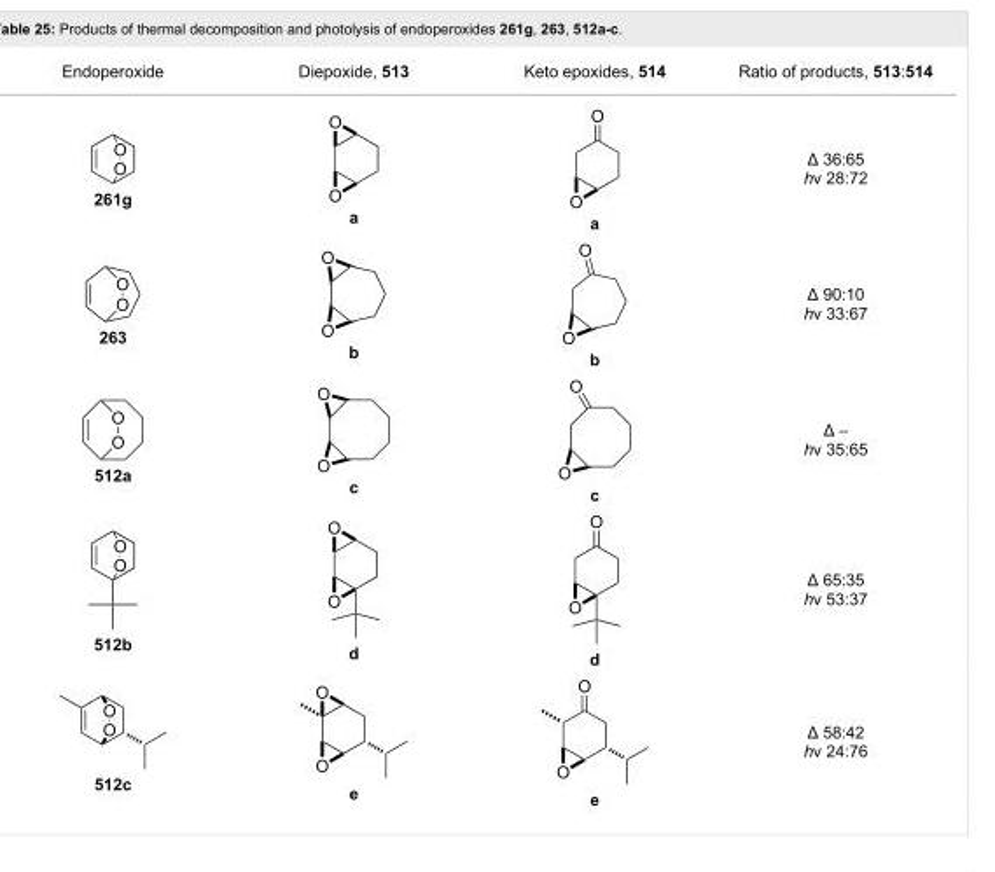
<table><tbody><tr><td>Endoperoxide</td><td>Diepoxide, 513</td><td>Keto epoxides, 514</td><td>Ratio of products, 513:514</td></tr><tr><td>261g</td><td>a</td><td>a</td><td>Δ 36:65 hν 28:72</td></tr><tr><td>263</td><td>b</td><td>b</td><td>Δ 90:10 hν 33:67</td></tr><tr><td>512a</td><td>c</td><td>c</td><td>Δ – hν 35:65</td></tr><tr><td>512b</td><td>d</td><td>d</td><td>Δ 65:35 hν 53:37</td></tr><tr><td>512c</td><td>e</td><td>e</td><td>Δ 58:42 hν 24:76</td></tr></tbody></table>